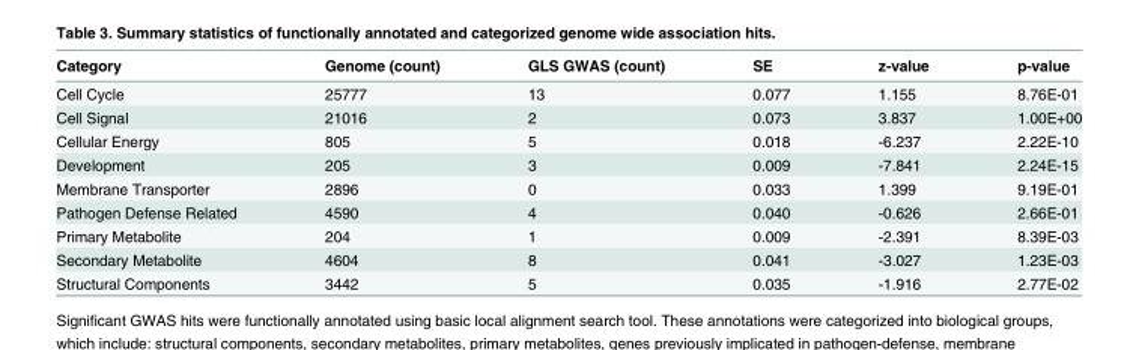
<table><thead><tr><td>Category</td><td>Genome (count)</td><td>GLS GWAS (count)</td><td>SE</td><td>z-value</td><td>p-value</td></tr></thead><tbody><tr><td>Cell Cycle</td><td>25777</td><td>13</td><td>0.077</td><td>1.155</td><td>8.76E-01</td></tr><tr><td>Cell Signal</td><td>21016</td><td>2</td><td>0.073</td><td>3.837</td><td>1.00E+00</td></tr><tr><td>Cellular Energy</td><td>805</td><td>5</td><td>0.018</td><td>-6.237</td><td>2.22E-10</td></tr><tr><td>Development</td><td>205</td><td>3</td><td>0.009</td><td>-7.841</td><td>2.24E-15</td></tr><tr><td>Membrane Transporter</td><td>2896</td><td>0</td><td>0.033</td><td>1.399</td><td>9.19E-01</td></tr><tr><td>Pathogen Defense Related</td><td>4590</td><td>4</td><td>0.040</td><td>-0.626</td><td>2.66E-01</td></tr><tr><td>Primary Metabolite</td><td>204</td><td>1</td><td>0.009</td><td>-2.391</td><td>8.39E-03</td></tr><tr><td>Secondary Metabolite</td><td>4604</td><td>8</td><td>0.041</td><td>-3.027</td><td>1.23E-03</td></tr><tr><td>Structural Components</td><td>3442</td><td>5</td><td>0.035</td><td>-1.916</td><td>2.77E-02</td></tr></tbody></table>